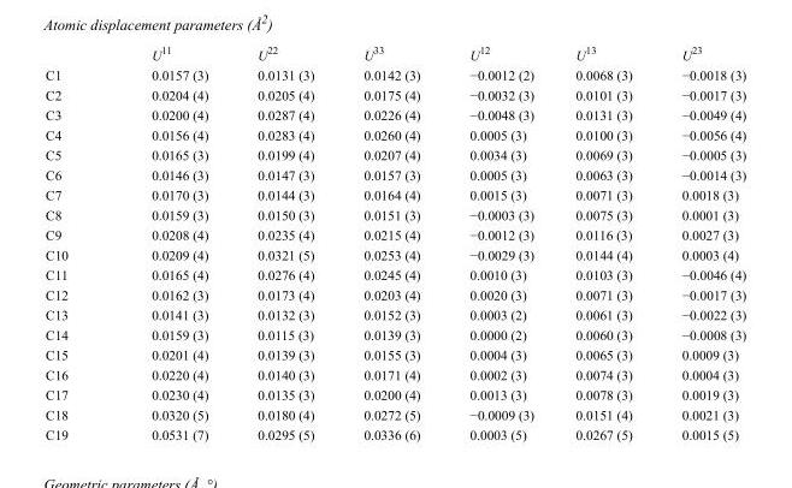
<table><thead><tr><td></td><td>U<sup>11</sup></td><td>U<sup>22</sup></td><td>U<sup>33</sup></td><td>U<sup>12</sup></td><td>U<sup>13</sup></td><td>U<sup>23</sup></td></tr></thead><tbody><tr><td>C1</td><td>0.0157 (3)</td><td>0.0131 (3)</td><td>0.0142 (3)</td><td>−0.0012 (2)</td><td>0.0068 (3)</td><td>−0.0018 (3)</td></tr><tr><td>C2</td><td>0.0204 (4)</td><td>0.0205 (4)</td><td>0.0175 (4)</td><td>−0.0032 (3)</td><td>0.0101 (3)</td><td>−0.0017 (3)</td></tr><tr><td>C3</td><td>0.0200 (4)</td><td>0.0287 (4)</td><td>0.0226 (4)</td><td>−0.0048 (3)</td><td>0.0131 (3)</td><td>−0.0049 (4)</td></tr><tr><td>C4</td><td>0.0156 (4)</td><td>0.0283 (4)</td><td>0.0260 (4)</td><td>0.0005 (3)</td><td>0.0100 (3)</td><td>−0.0056 (4)</td></tr><tr><td>C5</td><td>0.0165 (3)</td><td>0.0199 (4)</td><td>0.0207 (4)</td><td>0.0034 (3)</td><td>0.0069 (3)</td><td>−0.0005 (3)</td></tr><tr><td>C6</td><td>0.0146 (3)</td><td>0.0147 (3)</td><td>0.0157 (3)</td><td>0.0005 (3)</td><td>0.0063 (3)</td><td>−0.0014 (3)</td></tr><tr><td>C7</td><td>0.0170 (3)</td><td>0.0144 (3)</td><td>0.0164 (4)</td><td>0.0015 (3)</td><td>0.0071 (3)</td><td>0.0018 (3)</td></tr><tr><td>C8</td><td>0.0159 (3)</td><td>0.0150 (3)</td><td>0.0151 (3)</td><td>−0.0003 (3)</td><td>0.0075 (3)</td><td>0.0001 (3)</td></tr><tr><td>C9</td><td>0.0208 (4)</td><td>0.0235 (4)</td><td>0.0215 (4)</td><td>−0.0012 (3)</td><td>0.0116 (3)</td><td>0.0027 (3)</td></tr><tr><td>C10</td><td>0.0209 (4)</td><td>0.0321 (5)</td><td>0.0253 (4)</td><td>−0.0029 (3)</td><td>0.0144 (4)</td><td>0.0003 (4)</td></tr><tr><td>C11</td><td>0.0165 (4)</td><td>0.0276 (4)</td><td>0.0245 (4)</td><td>0.0010 (3)</td><td>0.0103 (3)</td><td>−0.0046 (4)</td></tr><tr><td>C12</td><td>0.0162 (3)</td><td>0.0173 (4)</td><td>0.0203 (4)</td><td>0.0020 (3)</td><td>0.0071 (3)</td><td>−0.0017 (3)</td></tr><tr><td>C13</td><td>0.0141 (3)</td><td>0.0132 (3)</td><td>0.0152 (3)</td><td>0.0003 (2)</td><td>0.0061 (3)</td><td>−0.0022 (3)</td></tr><tr><td>C14</td><td>0.0159 (3)</td><td>0.0115 (3)</td><td>0.0139 (3)</td><td>0.0000 (2)</td><td>0.0060 (3)</td><td>−0.0008 (3)</td></tr><tr><td>C15</td><td>0.0201 (4)</td><td>0.0139 (3)</td><td>0.0155 (3)</td><td>0.0004 (3)</td><td>0.0065 (3)</td><td>0.0009 (3)</td></tr><tr><td>C16</td><td>0.0220 (4)</td><td>0.0140 (3)</td><td>0.0171 (4)</td><td>0.0002 (3)</td><td>0.0074 (3)</td><td>0.0004 (3)</td></tr><tr><td>C17</td><td>0.0230 (4)</td><td>0.0135 (3)</td><td>0.0200 (4)</td><td>0.0013 (3)</td><td>0.0078 (3)</td><td>0.0019 (3)</td></tr><tr><td>C18</td><td>0.0320 (5)</td><td>0.0180 (4)</td><td>0.0272 (5)</td><td>−0.0009 (3)</td><td>0.0151 (4)</td><td>0.0021 (3)</td></tr><tr><td>C19</td><td>0.0531 (7)</td><td>0.0295 (5)</td><td>0.0336 (6)</td><td>0.0003 (5)</td><td>0.0267 (5)</td><td>0.0015 (5)</td></tr></tbody></table>